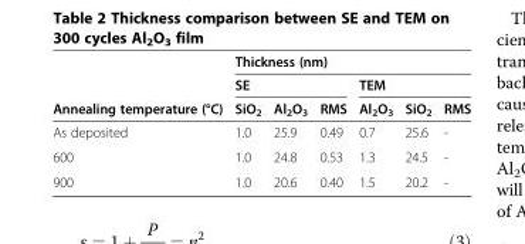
<table><thead><tr><td rowspan="3">Annealing temperature (°C)</td><td colspan="6">Thickness (nm)</td></tr><tr><td colspan="3">SE</td><td colspan="3">TEM</td></tr><tr><td>SiO<sub>2</sub></td><td>Al<sub>2</sub>O<sub>3</sub></td><td>RMS</td><td>Al<sub>2</sub>O<sub>3</sub></td><td>SiO<sub>2</sub></td><td>RMS</td></tr></thead><tbody><tr><td>As deposited</td><td>1.0</td><td>25.9</td><td>0.49</td><td>0.7</td><td>25.6</td><td>-</td></tr><tr><td>600</td><td>1.0</td><td>24.8</td><td>0.53</td><td>1.3</td><td>24.5</td><td>-</td></tr><tr><td>900</td><td>1.0</td><td>20.6</td><td>0.40</td><td>1.5</td><td>20.2</td><td>-</td></tr></tbody></table>